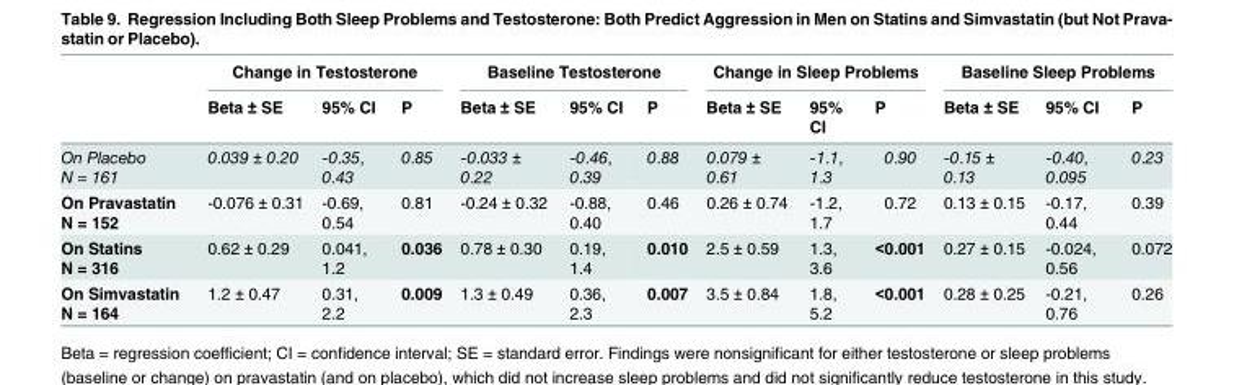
<table><thead><tr><td rowspan="2"></td><td colspan="3">Change in Testosterone</td><td colspan="3">Baseline Testosterone</td><td colspan="3">Change in Sleep Problems</td><td colspan="3">Baseline Sleep Problems</td></tr><tr><td>Beta ± SE</td><td>95% CI</td><td>P</td><td>Beta ± SE</td><td>95% CI</td><td>P</td><td>Beta ± SE</td><td>95% CI</td><td>P</td><td>Beta ± SE</td><td>95% CI</td><td>P</td></tr></thead><tbody><tr><td>On Placebo N = 161</td><td>0.039 ± 0.20</td><td>-0.35, 0.43</td><td>0.85</td><td>-0.033 ± 0.22</td><td>-0.46, 0.39</td><td>0.88</td><td>0.079 ± 0.61</td><td>-1.1, 1.3</td><td>0.90</td><td>-0.15 ± 0.13</td><td>-0.40, 0.095</td><td>0.23</td></tr><tr><td>On Pravastatin N = 152</td><td>-0.076 ± 0.31</td><td>-0.69, 0.54</td><td>0.81</td><td>-0.24 ± 0.32</td><td>-0.88, 0.40</td><td>0.46</td><td>0.26 ± 0.74</td><td>-1.2, 1.7</td><td>0.72</td><td>0.13 ± 0.15</td><td>-0.17, 0.44</td><td>0.39</td></tr><tr><td>On Statins N = 316</td><td>0.62 ± 0.29</td><td>0.041, 1.2</td><td>0.036</td><td>0.78 ± 0.30</td><td>0.19, 1.4</td><td>0.010</td><td>2.5 ± 0.59</td><td>1.3, 3.6</td><td>&lt;0.001</td><td>0.27 ± 0.15</td><td>-0.024, 0.56</td><td>0.072</td></tr><tr><td>On Simvastatin N = 164</td><td>1.2 ± 0.47</td><td>0.31, 2.2</td><td>0.009</td><td>1.3 ± 0.49</td><td>0.36, 2.3</td><td>0.007</td><td>3.5 ± 0.84</td><td>1.8, 5.2</td><td>&lt;0.001</td><td>0.28 ± 0.25</td><td>-0.21, 0.76</td><td>0.26</td></tr></tbody></table>